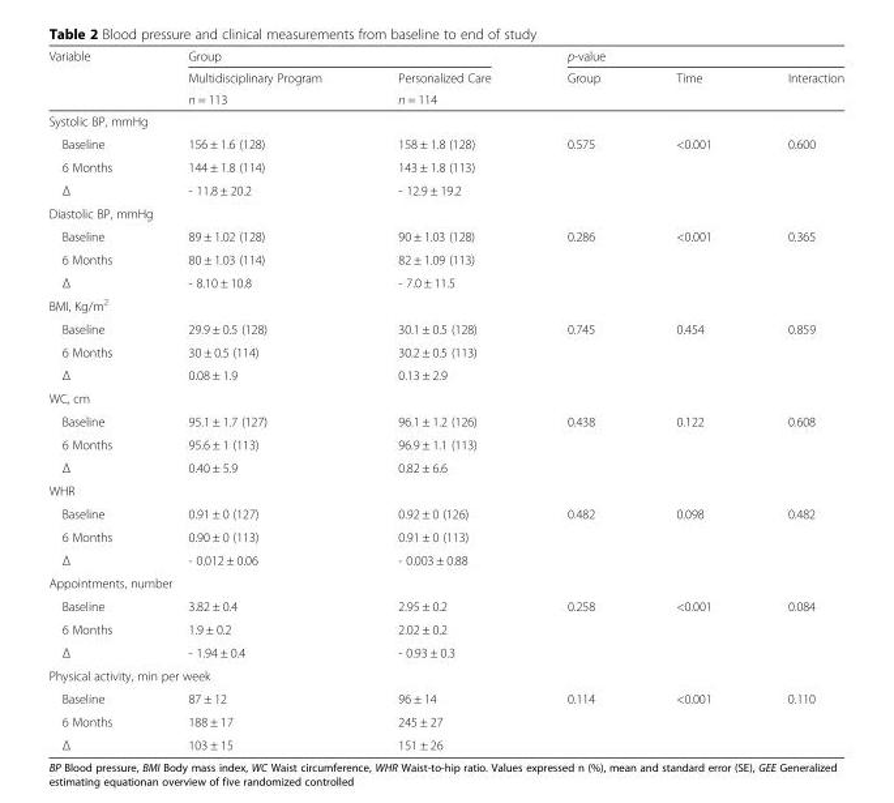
<table><thead><tr><td rowspan="3">Variable</td><td colspan="2">Group</td><td colspan="3">p-value</td></tr><tr><td rowspan="2">Multidisciplinary Program n = 113</td><td rowspan="2">Personalized Care n = 114</td><td rowspan="2">Group</td><td rowspan="2">Time</td><td rowspan="2">Interaction</td></tr><tr></tr></thead><tbody><tr><td colspan="6">Systolic BP, mmHg</td></tr><tr><td>Baseline</td><td>156 ± 1.6 (128)</td><td>158 ± 1.8 (128)</td><td rowspan="3">0.575</td><td rowspan="3">&lt;0.001</td><td rowspan="3">0.600</td></tr><tr><td>6 Months</td><td>144 ± 1.8 (114)</td><td>143 ± 1.8 (113)</td></tr><tr><td>Δ</td><td>- 11.8 ± 20.2</td><td>- 12.9 ± 19.2</td></tr><tr><td colspan="6">Diastolic BP, mmHg</td></tr><tr><td>Baseline</td><td>89 ± 1.02 (128)</td><td>90 ± 1.03 (128)</td><td rowspan="3">0.286</td><td rowspan="3">&lt;0.001</td><td rowspan="3">0.365</td></tr><tr><td>6 Months</td><td>80 ± 1.03 (114)</td><td>82 ± 1.09 (113)</td></tr><tr><td>Δ</td><td>- 8.10 ± 10.8</td><td>- 7.0 ± 11.5</td></tr><tr><td colspan="6">BMI, Kg/m<sup>2</sup></td></tr><tr><td>Baseline</td><td>29.9 ± 0.5 (128)</td><td>30.1 ± 0.5 (128)</td><td rowspan="3">0.745</td><td rowspan="3">0.454</td><td rowspan="3">0.859</td></tr><tr><td>6 Months</td><td>30 ± 0.5 (114)</td><td>30.2 ± 0.5 (113)</td></tr><tr><td>Δ</td><td>0.08 ± 1.9</td><td>0.13 ± 2.9</td></tr><tr><td colspan="6">WC, cm</td></tr><tr><td>Baseline</td><td>95.1 ± 1.7 (127)</td><td>96.1 ± 1.2 (126)</td><td rowspan="3">0.438</td><td rowspan="3">0.122</td><td rowspan="3">0.608</td></tr><tr><td>6 Months</td><td>95.6 ± 1 (113)</td><td>96.9 ± 1.1 (113)</td></tr><tr><td>Δ</td><td>0.40 ± 5.9</td><td>0.82 ± 6.6</td></tr><tr><td colspan="6">WHR</td></tr><tr><td>Baseline</td><td>0.91 ± 0 (127)</td><td>0.92 ± 0 (126)</td><td rowspan="3">0.482</td><td rowspan="3">0.098</td><td rowspan="3">0.482</td></tr><tr><td>6 Months</td><td>0.90 ± 0 (113)</td><td>0.91 ± 0 (113)</td></tr><tr><td>Δ</td><td>- 0.012 ± 0.06</td><td>- 0.003 ± 0.88</td></tr><tr><td colspan="6">Appointments, number</td></tr><tr><td>Baseline</td><td>3.82 ± 0.4</td><td>2.95 ± 0.2</td><td rowspan="3">0.258</td><td rowspan="3">&lt;0.001</td><td rowspan="3">0.084</td></tr><tr><td>6 Months</td><td>1.9 ± 0.2</td><td>2.02 ± 0.2</td></tr><tr><td>Δ</td><td>- 1.94 ± 0.4</td><td>- 0.93 ± 0.3</td></tr><tr><td colspan="6">Physical activity, min per week</td></tr><tr><td>Baseline</td><td>87 ± 12</td><td>96 ± 14</td><td rowspan="3">0.114</td><td rowspan="3">&lt;0.001</td><td rowspan="3">0.110</td></tr><tr><td>6 Months</td><td>188 ± 17</td><td>245 ± 27</td></tr><tr><td>Δ</td><td>103 ± 15</td><td>151 ± 26</td></tr></tbody></table>